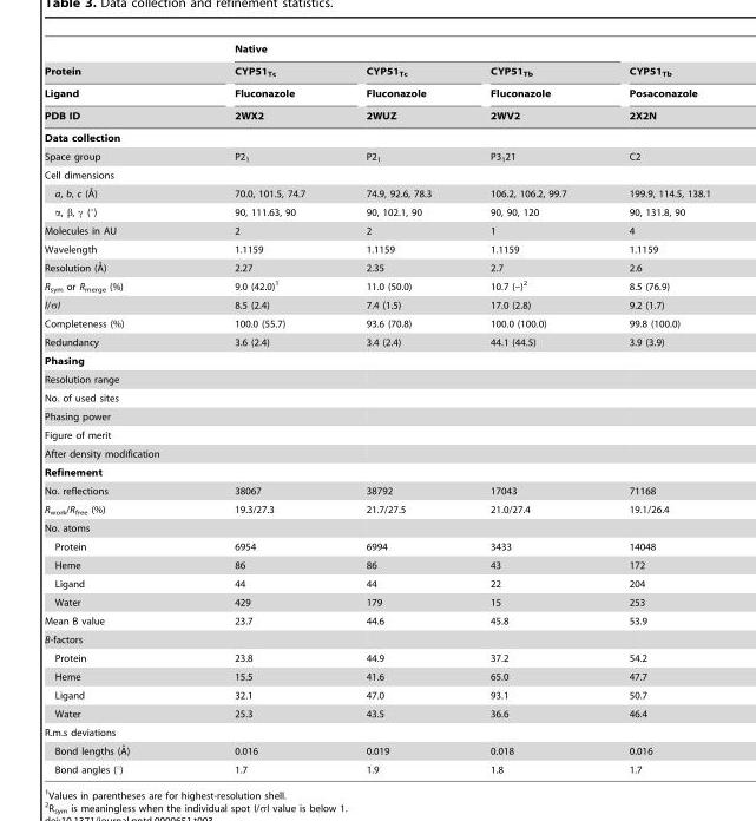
<table><thead><tr><td rowspan="4">Protein Ligand PDB ID</td><td colspan="3">Native</td><td rowspan="4">CYP51<sub>Tb</sub> Posaconazole 2X2N</td></tr><tr><td rowspan="3">CYP51<sub>Tc</sub> Fluconazole 2WX2</td><td rowspan="3">CYP51<sub>Tc</sub> Fluconazole 2WUZ</td><td rowspan="3">CYP51<sub>Tb</sub> Fluconazole 2WV2</td></tr><tr></tr><tr></tr></thead><tbody><tr><td colspan="5">Data collection</td></tr><tr><td>Space group</td><td>P2<sub>1</sub></td><td>P2<sub>1</sub></td><td>P3<sub>1</sub>21</td><td>C2</td></tr><tr><td colspan="5">Cell dimensions</td></tr><tr><td>a, b, c (A˚)</td><td>70.0, 101.5, 74.7</td><td>74.9, 92.6, 78.3</td><td>106.2, 106.2, 99.7</td><td>199.9, 114.5, 138.1</td></tr><tr><td>α, β, γ (°)</td><td>90, 111.63, 90</td><td>90, 102.1, 90</td><td>90, 90, 120</td><td>90, 131.8, 90</td></tr><tr><td>Molecules in AU</td><td>2</td><td>2</td><td>1</td><td>4</td></tr><tr><td>Wavelength</td><td>1.1159</td><td>1.1159</td><td>1.1159</td><td>1.1159</td></tr><tr><td>Resolution (A˚)</td><td>2.27</td><td>2.35</td><td>2.7</td><td>2.6</td></tr><tr><td>R<sub>sym</sub> or R<sub>merge</sub> (%)</td><td>9.0 (42.0)<sup>1</sup></td><td>11.0 (50.0)</td><td>10.7 (–)<sup>2</sup></td><td>8.5 (76.9)</td></tr><tr><td>I/σI</td><td>8.5 (2.4)</td><td>7.4 (1.5)</td><td>17.0 (2.8)</td><td>9.2 (1.7)</td></tr><tr><td>Completeness (%)</td><td>100.0 (55.7)</td><td>93.6 (70.8)</td><td>100.0 (100.0)</td><td>99.8 (100.0)</td></tr><tr><td>Redundancy</td><td>3.6 (2.4)</td><td>3.4 (2.4)</td><td>44.1 (44.5)</td><td>3.9 (3.9)</td></tr><tr><td colspan="5">Phasing</td></tr><tr><td colspan="5">Resolution range</td></tr><tr><td colspan="5">No. of used sites</td></tr><tr><td colspan="5">Phasing power</td></tr><tr><td colspan="5">Figure of merit</td></tr><tr><td colspan="5">After density modification</td></tr><tr><td colspan="5">Refinement</td></tr><tr><td>No. reflections</td><td>38067</td><td>38792</td><td>17043</td><td>71168</td></tr><tr><td>R<sub>work</sub>/R<sub>free</sub> (%)</td><td>19.3/27.3</td><td>21.7/27.5</td><td>21.0/27.4</td><td>19.1/26.4</td></tr><tr><td colspan="5">No. atoms</td></tr><tr><td>Protein</td><td>6954</td><td>6994</td><td>3433</td><td>14048</td></tr><tr><td>Heme</td><td>86</td><td>86</td><td>43</td><td>172</td></tr><tr><td>Ligand</td><td>44</td><td>44</td><td>22</td><td>204</td></tr><tr><td>Water</td><td>429</td><td>179</td><td>15</td><td>253</td></tr><tr><td>Mean B value</td><td>23.7</td><td>44.6</td><td>45.8</td><td>53.9</td></tr><tr><td colspan="5">B-factors</td></tr><tr><td>Protein</td><td>23.8</td><td>44.9</td><td>37.2</td><td>54.2</td></tr><tr><td>Heme</td><td>15.5</td><td>41.6</td><td>65.0</td><td>47.7</td></tr><tr><td>Ligand</td><td>32.1</td><td>47.0</td><td>93.1</td><td>50.7</td></tr><tr><td>Water</td><td>25.3</td><td>43.5</td><td>36.6</td><td>46.4</td></tr><tr><td colspan="5">R.m.s deviations</td></tr><tr><td>Bond lengths (A˚)</td><td>0.016</td><td>0.019</td><td>0.018</td><td>0.016</td></tr><tr><td>Bond angles (°)</td><td>1.7</td><td>1.9</td><td>1.8</td><td>1.7</td></tr></tbody></table>